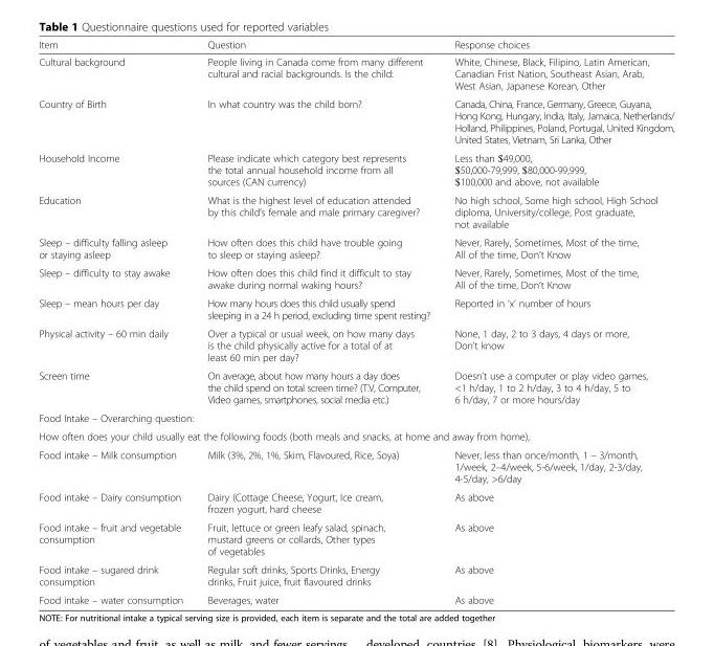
<table><thead><tr><td>Item</td><td>Question</td><td>Response choices</td></tr></thead><tbody><tr><td>Cultural background</td><td>People living in Canada come from many different cultural and racial backgrounds. Is the child:</td><td>White, Chinese, Black, Filipino, Latin American, Canadian Frist Nation, Southeast Asian, Arab, West Asian, Japanese Korean, Other</td></tr><tr><td>Country of Birth</td><td>In what country was the child born?</td><td>Canada, China, France, Germany, Greece, Guyana, Hong Kong, Hungary, India, Italy, Jamaica, Netherlands/ Holland, Philippines, Poland, Portugal, United Kingdom, United States, Vietnam, Sri Lanka, Other</td></tr><tr><td>Household Income</td><td>Please indicate which category best represents the total annual household income from all sources (CAN currency)</td><td>Less than $49,000, $50,000-79,999, $80,000-99,999, $100,000 and above, not available</td></tr><tr><td>Education</td><td>What is the highest level of education attended by this child’s female and male primary caregiver?</td><td>No high school, Some high school, High School diploma, University/college, Post graduate, not available</td></tr><tr><td>Sleep – difficulty falling asleep or staying asleep</td><td>How often does this child have trouble going to sleep or staying asleep?</td><td>Never, Rarely, Sometimes, Most of the time, All of the time, Don’t Know</td></tr><tr><td>Sleep – difficulty to stay awake</td><td>How often does this child find it difficult to stay awake during normal waking hours?</td><td>Never, Rarely, Sometimes, Most of the time, All of the time, Don’t Know</td></tr><tr><td>Sleep – mean hours per day</td><td>How many hours does this child usually spend sleeping in a 24 h period, excluding time spent resting?</td><td>Reported in ‘x’ number of hours</td></tr><tr><td>Physical activity – 60 min daily</td><td>Over a typical or usual week, on how many days is the child physically active for a total of at least 60 min per day?</td><td>None, 1 day, 2 to 3 days, 4 days or more, Don’t know</td></tr><tr><td>Screen time</td><td>On average, about how many hours a day does the child spend on total screen time? (T.V, Computer, Video games, smartphones, social media etc.)</td><td>Doesn’t use a computer or play video games, &lt;1 h/day, 1 to 2 h/day, 3 to 4 h/day, 5 to 6 h/day, 7 or more hours/day</td></tr><tr><td colspan="3">Food Intake – Overarching question:</td></tr><tr><td colspan="3">How often does your child usually eat the following foods (both meals and snacks, at home and away from home),</td></tr><tr><td>Food intake – Milk consumption</td><td>Milk (3%, 2%, 1%, Skim, Flavoured, Rice, Soya)</td><td>Never, less than once/month, 1 – 3/month, 1/week, 2–4/week, 5-6/week, 1/day, 2-3/day, 4-5/day, &gt;6/day</td></tr><tr><td>Food intake – Dairy consumption</td><td>Dairy (Cottage Cheese, Yogurt, Ice cream, frozen yogurt, hard cheese</td><td>As above</td></tr><tr><td>Food intake – fruit and vegetable consumption</td><td>Fruit, lettuce or green leafy salad, spinach, mustard greens or collards, Other types of vegetables</td><td>As above</td></tr><tr><td>Food intake – sugared drink consumption</td><td>Regular soft drinks, Sports Drinks, Energy drinks, Fruit juice, fruit flavoured drinks</td><td>As above</td></tr><tr><td>Food intake – water consumption</td><td>Beverages, water</td><td>As above</td></tr></tbody></table>